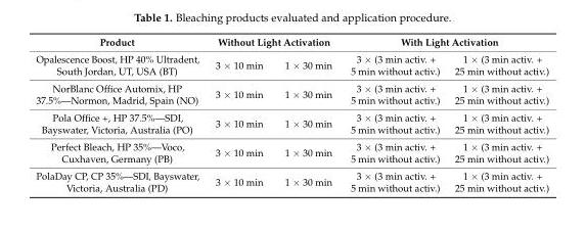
<table><thead><tr><td rowspan="2">Product Opalescence Boost, HP 40% Ultradent, South Jordan, UT, USA (BT)</td><td colspan="2">Without Light Activation</td><td colspan="2">With Light Activation</td></tr><tr><td>3 × 10 min</td><td>1 × 30 min</td><td>3 × (3 min activ. + 5 min without activ.)</td><td>1 × (3 min activ. + 25 min without activ.)</td></tr></thead><tbody><tr><td>NorBlanc Office Automix, HP 37.5%—Normon, Madrid, Spain (NO)</td><td>3 × 10 min</td><td>1 × 30 min</td><td>3 × (3 min activ. + 5 min without activ.)</td><td>1 × (3 min activ. + 25 min without activ.)</td></tr><tr><td>Pola Office +, HP 37.5%—SDI, Bayswater, Victoria, Australia (PO)</td><td>3 × 10 min</td><td>1 × 30 min</td><td>3 × (3 min activ. + 5 min without activ.)</td><td>1 × (3 min activ. + 25 min without activ.)</td></tr><tr><td>Perfect Bleach, HP 35%—Voco, Cuxhaven, Germany (PB)</td><td>3 × 10 min</td><td>1 × 30 min</td><td>3 × (3 min activ. + 5 min without activ.)</td><td>1 × (3 min activ. + 25 min without activ.)</td></tr><tr><td>PolaDay CP, CP 35%—SDI, Bayswater, Victoria, Australia (PD)</td><td>3 × 10 min</td><td>1 × 30 min</td><td>3 × (3 min activ. + 5 min without activ.)</td><td>1 × (3 min activ. + 25 min without activ.)</td></tr></tbody></table>